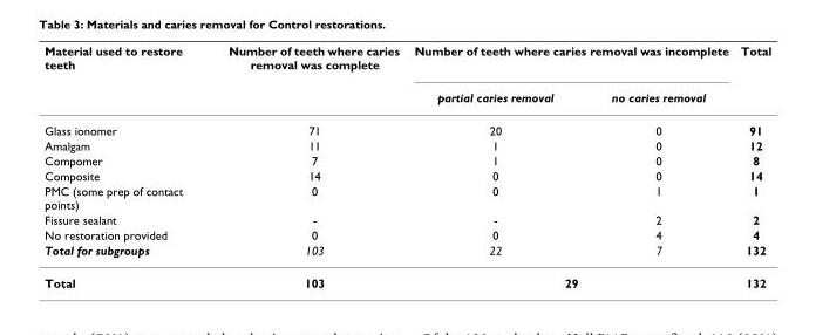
<table><thead><tr><td rowspan="2">Material used to restore teeth</td><td rowspan="2">Number of teeth where caries removal was complete</td><td colspan="2">Number of teeth where caries removal was incomplete</td><td rowspan="2">Total</td></tr><tr><td>partial caries removal</td><td>no caries removal</td></tr></thead><tbody><tr><td>Glass ionomer</td><td>71</td><td>20</td><td>0</td><td>91</td></tr><tr><td>Amalgam</td><td>11</td><td>1</td><td>0</td><td>12</td></tr><tr><td>Compomer</td><td>7</td><td>1</td><td>0</td><td>8</td></tr><tr><td>Composite</td><td>14</td><td>0</td><td>0</td><td>14</td></tr><tr><td>PMC (some prep of contact points)</td><td>0</td><td>0</td><td>1</td><td>1</td></tr><tr><td>Fissure sealant</td><td>-</td><td>-</td><td>2</td><td>2</td></tr><tr><td>No restoration provided</td><td>0</td><td>0</td><td>4</td><td>4</td></tr><tr><td>Total for subgroups</td><td>103</td><td>22</td><td>7</td><td>132</td></tr><tr><td>Total</td><td>103</td><td colspan="2">29</td><td>132</td></tr></tbody></table>